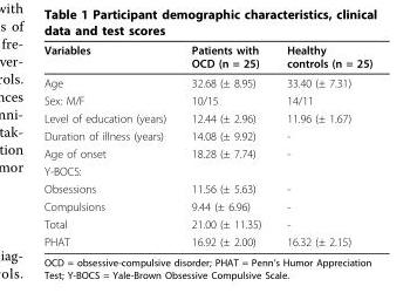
<table><thead><tr><td>Variables</td><td>Patients with OCD (n = 25)</td><td>Healthy controls (n = 25)</td></tr></thead><tbody><tr><td>Age</td><td>32.68 (± 8.95)</td><td>33.40 (± 7.31)</td></tr><tr><td>Sex: M/F</td><td>10/15</td><td>14/11</td></tr><tr><td>Level of education (years)</td><td>12.44 (± 2.96)</td><td>11.96 (± 1.67)</td></tr><tr><td>Duration of illness (years)</td><td>14.08 (± 9.92)</td><td>-</td></tr><tr><td>Age of onset</td><td>18.28 (± 7.74)</td><td>-</td></tr><tr><td colspan="3">Y-BOCS:</td></tr><tr><td>Obsessions</td><td>11.56 (± 5.63)</td><td>-</td></tr><tr><td>Compulsions</td><td>9.44 (± 6.96)</td><td>-</td></tr><tr><td>Total</td><td>21.00 (± 11.35)</td><td>-</td></tr><tr><td>PHAT</td><td>16.92 (± 2.00)</td><td>16.32 (± 2.15)</td></tr></tbody></table>